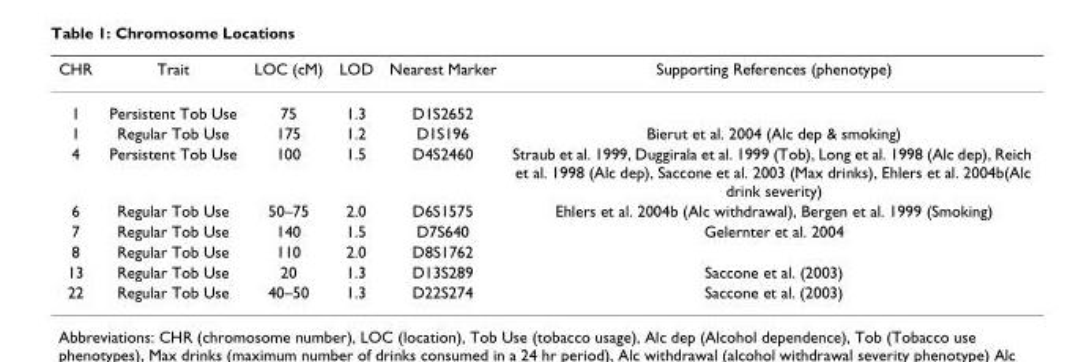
<table><thead><tr><td>CHR</td><td>Trait</td><td>LOC (cM)</td><td>LOD</td><td>Nearest Marker</td><td>Supporting References (phenotype)</td></tr></thead><tbody><tr><td>1</td><td>Persistent Tob Use</td><td>75</td><td>1.3</td><td>D1S2652</td><td></td></tr><tr><td>1</td><td>Regular Tob Use</td><td>175</td><td>1.2</td><td>D1S196</td><td>Bierut et al. 2004 (Alc dep &amp; smoking)</td></tr><tr><td>4</td><td>Persistent Tob Use</td><td>100</td><td>1.5</td><td>D4S2460</td><td>Straub et al. 1999, Duggirala et al. 1999 (Tob), Long et al. 1998 (Alc dep), Reich et al. 1998 (Alc dep), Saccone et al. 2003 (Max drinks), Ehlers et al. 2004b(Alc drink severity)</td></tr><tr><td>6</td><td>Regular Tob Use</td><td>50–75</td><td>2.0</td><td>D6S1575</td><td>Ehlers et al. 2004b (Alc withdrawal), Bergen et al. 1999 (Smoking)</td></tr><tr><td>7</td><td>Regular Tob Use</td><td>140</td><td>1.5</td><td>D7S640</td><td>Gelernter et al. 2004</td></tr><tr><td>8</td><td>Regular Tob Use</td><td>110</td><td>2.0</td><td>D8S1762</td><td></td></tr><tr><td>13</td><td>Regular Tob Use</td><td>20</td><td>1.3</td><td>D13S289</td><td>Saccone et al. (2003)</td></tr><tr><td>22</td><td>Regular Tob Use</td><td>40–50</td><td>1.3</td><td>D22S274</td><td>Saccone et al. (2003)</td></tr></tbody></table>